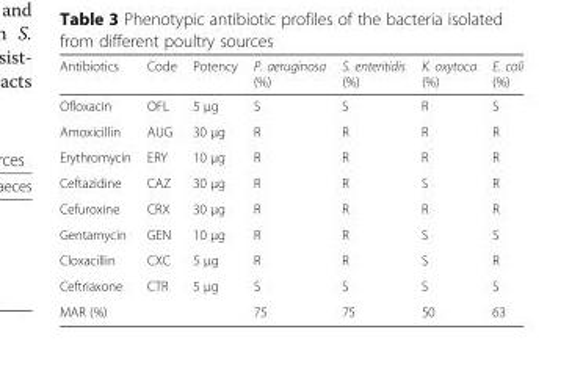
<table><thead><tr><td>Antibiotics</td><td>Code</td><td>Potency</td><td>P. aeruginosa (%)</td><td>S. enteritidis (%)</td><td>K. oxytoca (%)</td><td>E. coli (%)</td></tr></thead><tbody><tr><td>Ofloxacin</td><td>OFL</td><td>5 μg</td><td>S</td><td>S</td><td>R</td><td>S</td></tr><tr><td>Amoxicillin</td><td>AUG</td><td>30 μg</td><td>R</td><td>R</td><td>R</td><td>R</td></tr><tr><td>Erythromycin</td><td>ERY</td><td>10 μg</td><td>R</td><td>R</td><td>R</td><td>R</td></tr><tr><td>Ceftazidine</td><td>CAZ</td><td>30 μg</td><td>R</td><td>R</td><td>S</td><td>R</td></tr><tr><td>Cefuroxine</td><td>CRX</td><td>30 μg</td><td>R</td><td>R</td><td>R</td><td>R</td></tr><tr><td>Gentamycin</td><td>GEN</td><td>10 μg</td><td>R</td><td>R</td><td>S</td><td>S</td></tr><tr><td>Cloxacillin</td><td>CXC</td><td>5 μg</td><td>R</td><td>R</td><td>S</td><td>R</td></tr><tr><td>Ceftriaxone</td><td>CTR</td><td>5 μg</td><td>S</td><td>S</td><td>S</td><td>S</td></tr><tr><td>MAR (%)</td><td></td><td></td><td>75</td><td>75</td><td>50</td><td>63</td></tr></tbody></table>